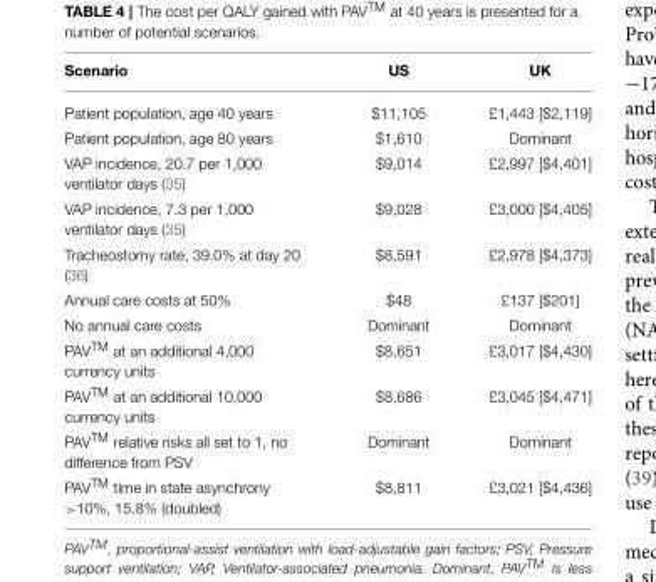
<table><thead><tr><td>Scenario</td><td>US</td><td>UK</td></tr></thead><tbody><tr><td>Patient population, age 40 years</td><td>$11,105</td><td>£1,443 [$2,119]</td></tr><tr><td>Patient population, age 80 years</td><td>$1,610</td><td>Dominant</td></tr><tr><td>VAP incidence, 20.7 per 1,000 ventilator days (35)</td><td>$9,014</td><td>£2,997 [$4,401]</td></tr><tr><td>VAP incidence, 7.3 per 1,000 ventilator days (35)</td><td>$9,028</td><td>£3,000 [$4,405]</td></tr><tr><td>Tracheostomy rate, 39.0% at day 20 (36)</td><td>$8,591</td><td>£2,978 [$4,373]</td></tr><tr><td>Annual care costs at 50%</td><td>$48</td><td>£137 [$201]</td></tr><tr><td>No annual care costs</td><td>Dominant</td><td>Dominant</td></tr><tr><td>PAVTM at an additional 4,000 currency units</td><td>$8,651</td><td>£3,017 [$4,430]</td></tr><tr><td>PAVTM at an additional 10,000 currency units</td><td>$8,686</td><td>£3,045 [$4,471]</td></tr><tr><td>PAVTM relative risks all set to 1, no difference from PSV</td><td>Dominant</td><td>Dominant</td></tr><tr><td>PAVTM time in state asynchrony &gt;10%, 15.8% (doubled)</td><td>$8,811</td><td>£3,021 [$4,436]</td></tr></tbody></table>